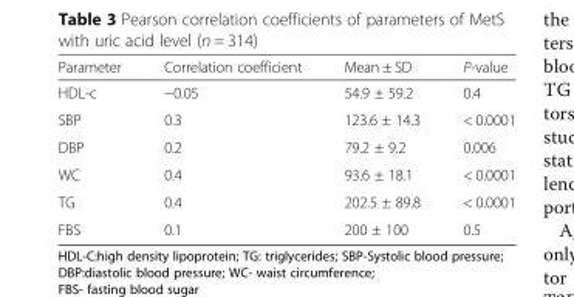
<table><thead><tr><td>Parameter</td><td>Correlation coefficient</td><td>Mean ± SD</td><td>P-value</td></tr></thead><tbody><tr><td>HDL-c</td><td>−0.05</td><td>54.9 ± 59.2</td><td>0.4</td></tr><tr><td>SBP</td><td>0.3</td><td>123.6 ± 14.3</td><td>&lt; 0.0001</td></tr><tr><td>DBP</td><td>0.2</td><td>79.2 ± 9.2</td><td>0.006</td></tr><tr><td>WC</td><td>0.4</td><td>93.6 ± 18.1</td><td>&lt; 0.0001</td></tr><tr><td>TG</td><td>0.4</td><td>202.5 ± 89.8</td><td>&lt; 0.0001</td></tr><tr><td>FBS</td><td>0.1</td><td>200 ± 100</td><td>0.5</td></tr></tbody></table>